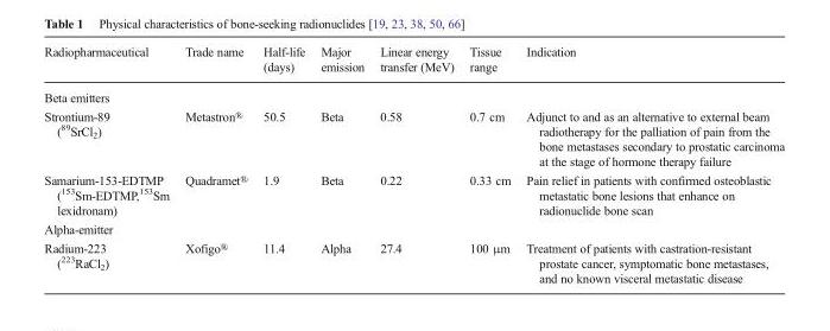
<table><thead><tr><td>Radiopharmaceutical</td><td>Trade name</td><td>Half-life (days)</td><td>Major emission</td><td>Linear energy transfer (MeV)</td><td>Tissue range</td><td>Indication</td></tr></thead><tbody><tr><td colspan="7">Beta emitters</td></tr><tr><td>Strontium-89 (<sup>89</sup>SrCl<sub>2</sub>)</td><td>Metastron®</td><td>50.5</td><td>Beta</td><td>0.58</td><td>0.7 cm</td><td>Adjunct to and as an alternative to external beam radiotherapy for the palliation of pain from the bone metastases secondary to prostatic carcinoma at the stage of hormone therapy failure</td></tr><tr><td>Samarium-153-EDTMP (<sup>153</sup>Sm-EDTMP,<sup>153</sup>Sm lexidronam)</td><td>Quadramet®</td><td>1.9</td><td>Beta</td><td>0.22</td><td>0.33 cm</td><td>Pain relief in patients with confirmed osteoblastic metastatic bone lesions that enhance on radionuclide bone scan</td></tr><tr><td colspan="7">Alpha-emitter</td></tr><tr><td>Radium-223 (<sup>223</sup>RaCl<sub>2</sub>)</td><td>Xofigo®</td><td>11.4</td><td>Alpha</td><td>27.4</td><td>100 μm</td><td>Treatment of patients with castration-resistant prostate cancer, symptomatic bone metastases, and no known visceral metastatic disease</td></tr></tbody></table>